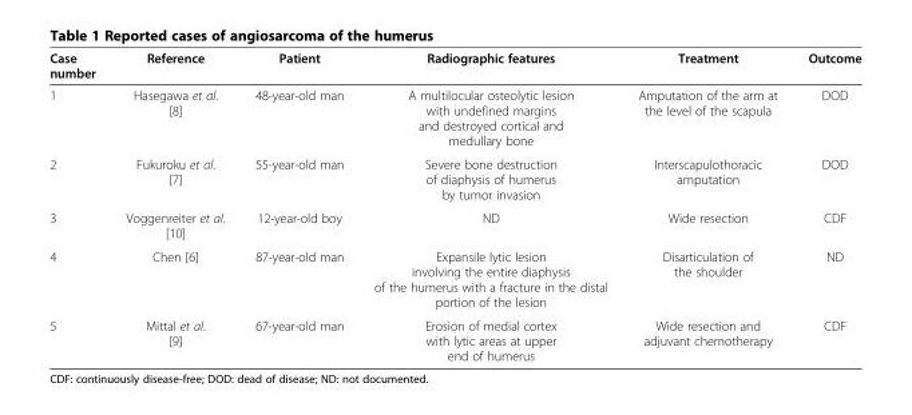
<table><thead><tr><td>Case number</td><td>Reference</td><td>Patient</td><td>Radiographic features</td><td>Treatment</td><td>Outcome</td></tr></thead><tbody><tr><td>1</td><td>Hasegawa et al. [8]</td><td>48-year-old man</td><td>A multilocular osteolytic lesion with undefined margins and destroyed cortical and medullary bone</td><td>Amputation of the arm at the level of the scapula</td><td>DOD</td></tr><tr><td>2</td><td>Fukuroku et al. [7]</td><td>55-year-old man</td><td>Severe bone destruction of diaphysis of humerus by tumor invasion</td><td>Interscapulothoracic amputation</td><td>DOD</td></tr><tr><td>3</td><td>Voggenreiter et al. [10]</td><td>12-year-old boy</td><td>ND</td><td>Wide resection</td><td>CDF</td></tr><tr><td>4</td><td>Chen [6]</td><td>87-year-old man</td><td>Expansile lytic lesion involving the entire diaphysis of the humerus with a fracture in the distal portion of the lesion</td><td>Disarticulation of the shoulder</td><td>ND</td></tr><tr><td>5</td><td>Mittal et al. [9]</td><td>67-year-old man</td><td>Erosion of medial cortex with lytic areas at upper end of humerus</td><td>Wide resection and adjuvant chemotherapy</td><td>CDF</td></tr></tbody></table>